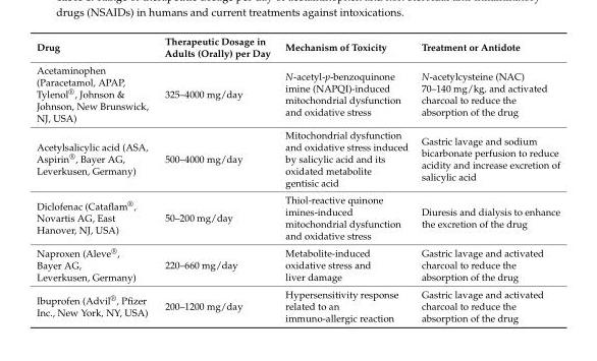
<table><thead><tr><td>Drug</td><td>Therapeutic Dosage in Adults (Orally) per Day</td><td>Mechanism of Toxicity</td><td>Treatment or Antidote</td></tr></thead><tbody><tr><td>Acetaminophen (Paracetamol, APAP, Tylenol<sup>®</sup>, Johnson &amp; Johnson, New Brunswick, NJ, USA)</td><td>325–4000 mg/day</td><td>N-acetyl-p-benzoquinone imine (NAPQI)-induced mitochondrial dysfunction and oxidative stress</td><td>N-acetylcysteine (NAC) 70–140 mg/kg, and activated charcoal to reduce the absorption of the drug</td></tr><tr><td>Acetylsalicylic acid (ASA, Aspirin<sup>®</sup>, Bayer AG, Leverkusen, Germany)</td><td>500–4000 mg/day</td><td>Mitochondrial dysfunction and oxidative stress induced by salicylic acid and its oxidated metabolite gentisic acid</td><td>Gastric lavage and sodium bicarbonate perfusion to reduce acidity and increase excretion of salicylic acid</td></tr><tr><td>Diclofenac (Cataflam<sup>®</sup>, Novartis AG, East Hanover, NJ, USA)</td><td>50–200 mg/day</td><td>Thiol-reactive quinone imines-induced mitochondrial dysfunction and oxidative stress</td><td>Diuresis and dialysis to enhance the excretion of the drug</td></tr><tr><td>Naproxen (Aleve<sup>®</sup>, Bayer AG, Leverkusen, Germany)</td><td>220–660 mg/day</td><td>Metabolite-induced oxidative stress and liver damage</td><td>Gastric lavage and activated charcoal to reduce the absorption of the drug</td></tr><tr><td>Ibuprofen (Advil<sup>®</sup>, Pfizer Inc., New York, NY, USA)</td><td>200–1200 mg/day</td><td>Hypersensitivity response related to an immuno-allergic reaction</td><td>Gastric lavage and activated charcoal to reduce the absorption of the drug</td></tr></tbody></table>